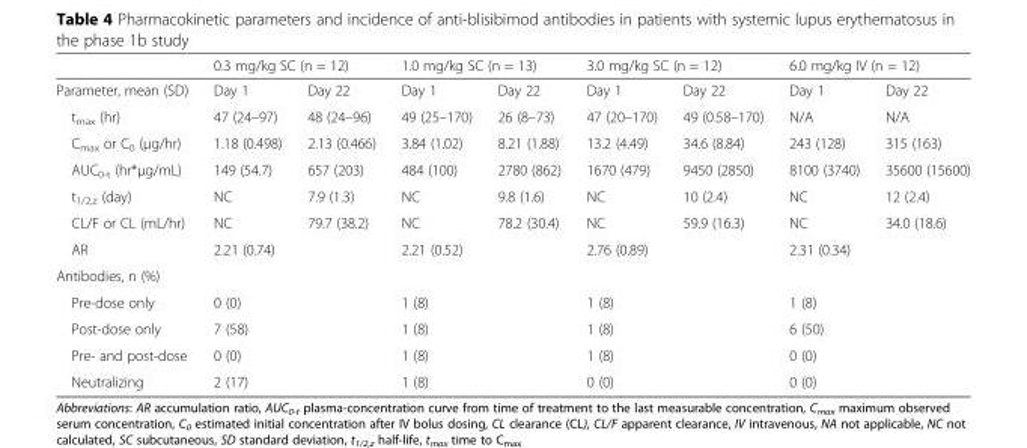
<table><thead><tr><td rowspan="2">Parameter, mean (SD)</td><td colspan="2">0.3 mg/kg SC (n = 12)</td><td colspan="2">1.0 mg/kg SC (n = 13)</td><td colspan="2">3.0 mg/kg SC (n = 12)</td><td colspan="2">6.0 mg/kg IV (n = 12)</td></tr><tr><td>Day 1</td><td>Day 22</td><td>Day 1</td><td>Day 22</td><td>Day 1</td><td>Day 22</td><td>Day 1</td><td>Day 22</td></tr></thead><tbody><tr><td>t<sub>max</sub> (hr)</td><td>47 (24–97)</td><td>48 (24–96)</td><td>49 (25–170)</td><td>26 (8–73)</td><td>47 (20–170)</td><td>49 (0.58–170)</td><td>N/A</td><td>N/A</td></tr><tr><td>C<sub>max</sub> or C<sub>0</sub> (μg/hr)</td><td>1.18 (0.498)</td><td>2.13 (0.466)</td><td>3.84 (1.02)</td><td>8.21 (1.88)</td><td>13.2 (4.49)</td><td>34.6 (8.84)</td><td>243 (128)</td><td>315 (163)</td></tr><tr><td>AUC<sub>0-t</sub> (hr*μg/mL)</td><td>149 (54.7)</td><td>657 (203)</td><td>484 (100)</td><td>2780 (862)</td><td>1670 (479)</td><td>9450 (2850)</td><td>8100 (3740)</td><td>35600 (15600)</td></tr><tr><td>t<sub>1/2,z</sub> (day)</td><td>NC</td><td>7.9 (1.3)</td><td>NC</td><td>9.8 (1.6)</td><td>NC</td><td>10 (2.4)</td><td>NC</td><td>12 (2.4)</td></tr><tr><td>CL/F or CL (mL/hr)</td><td>NC</td><td>79.7 (38.2)</td><td>NC</td><td>78.2 (30.4)</td><td>NC</td><td>59.9 (16.3)</td><td>NC</td><td>34.0 (18.6)</td></tr><tr><td>AR</td><td colspan="2">2.21 (0.74)</td><td colspan="2">2.21 (0.52)</td><td colspan="2">2.76 (0.89)</td><td colspan="2">2.31 (0.34)</td></tr><tr><td colspan="9">Antibodies, n (%)</td></tr><tr><td>Pre-dose only</td><td colspan="2">0 (0)</td><td colspan="2">1 (8)</td><td colspan="2">1 (8)</td><td colspan="2">1 (8)</td></tr><tr><td>Post-dose only</td><td colspan="2">7 (58)</td><td colspan="2">1 (8)</td><td colspan="2">1 (8)</td><td colspan="2">6 (50)</td></tr><tr><td>Pre- and post-dose</td><td colspan="2">0 (0)</td><td colspan="2">1 (8)</td><td colspan="2">1 (8)</td><td colspan="2">0 (0)</td></tr><tr><td>Neutralizing</td><td colspan="2">2 (17)</td><td colspan="2">1 (8)</td><td colspan="2">0 (0)</td><td colspan="2">0 (0)</td></tr></tbody></table>